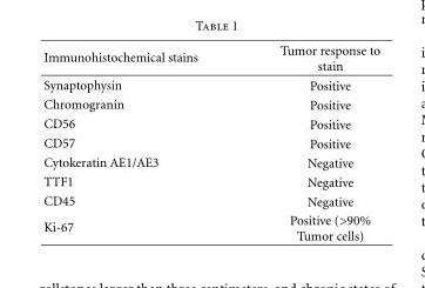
<table><thead><tr><td>Immunohistochemical stains</td><td>Tumor response to stain</td></tr></thead><tbody><tr><td>Synaptophysin</td><td>Positive</td></tr><tr><td>Chromogranin</td><td>Positive</td></tr><tr><td>CD56</td><td>Positive</td></tr><tr><td>CD57</td><td>Positive</td></tr><tr><td>Cytokeratin AE1/AE3</td><td>Negative</td></tr><tr><td>TTF1</td><td>Negative</td></tr><tr><td>CD45</td><td>Negative</td></tr><tr><td>Ki-67</td><td>Positive (&gt;90% Tumor cells)</td></tr></tbody></table>